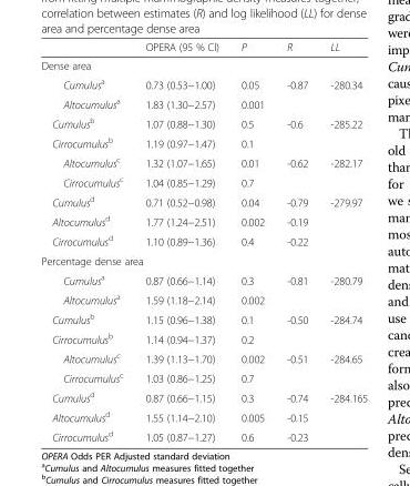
<table><thead><tr><td></td><td>OPERA (95 % CI)</td><td>P</td><td>R</td><td>LL</td></tr></thead><tbody><tr><td colspan="5">Dense area</td></tr><tr><td>Cumulus<sup>a</sup></td><td>0.73 (0.53−1.00)</td><td>0.05</td><td>-0.87</td><td>-280.34</td></tr><tr><td>Altocumulus<sup>a</sup></td><td>1.83 (1.30−2.57)</td><td>0.001</td><td></td><td></td></tr><tr><td>Cumulus<sup>b</sup></td><td>1.07 (0.88−1.30)</td><td>0.5</td><td>-0.6</td><td>-285.22</td></tr><tr><td>Cirrocumulus<sup>b</sup></td><td>1.19 (0.97−1.47)</td><td>0.1</td><td></td><td></td></tr><tr><td>Altocumulus<sup>c</sup></td><td>1.32 (1.07−1.65)</td><td>0.01</td><td>-0.62</td><td>-282.17</td></tr><tr><td>Cirrocumulus<sup>c</sup></td><td>1.04 (0.85−1.29)</td><td>0.7</td><td></td><td></td></tr><tr><td>Cumulus<sup>d</sup></td><td>0.71 (0.52−0.98)</td><td>0.04</td><td>-0.79</td><td>-279.97</td></tr><tr><td>Altocumulus<sup>d</sup></td><td>1.77 (1.24−2.51)</td><td>0.002</td><td>-0.19</td><td></td></tr><tr><td>Cirrocumulus<sup>d</sup></td><td>1.10 (0.89−1.36)</td><td>0.4</td><td>-0.22</td><td></td></tr><tr><td colspan="5">Percentage dense area</td></tr><tr><td>Cumulus<sup>a</sup></td><td>0.87 (0.66−1.14)</td><td>0.3</td><td>-0.81</td><td>-280.79</td></tr><tr><td>Altocumulus<sup>a</sup></td><td>1.59 (1.18−2.14)</td><td>0.002</td><td></td><td></td></tr><tr><td>Cumulus<sup>b</sup></td><td>1.15 (0.96−1.38)</td><td>0.1</td><td>-0.50</td><td>-284.74</td></tr><tr><td>Cirrocumulus<sup>b</sup></td><td>1.14 (0.94−1.37)</td><td>0.2</td><td></td><td></td></tr><tr><td>Altocumulus<sup>c</sup></td><td>1.39 (1.13−1.70)</td><td>0.002</td><td>-0.51</td><td>-284.65</td></tr><tr><td>Cirrocumulus<sup>c</sup></td><td>1.03 (0.86−1.25)</td><td>0.7</td><td></td><td></td></tr><tr><td>Cumulus<sup>d</sup></td><td>0.87 (0.66−1.15)</td><td>0.3</td><td>-0.74</td><td>-284.165</td></tr><tr><td>Altocumulus<sup>d</sup></td><td>1.55 (1.14−2.10)</td><td>0.005</td><td>-0.15</td><td></td></tr><tr><td>Cirrocumulus<sup>d</sup></td><td>1.05 (0.87−1.27)</td><td>0.6</td><td>-0.23</td><td></td></tr></tbody></table>